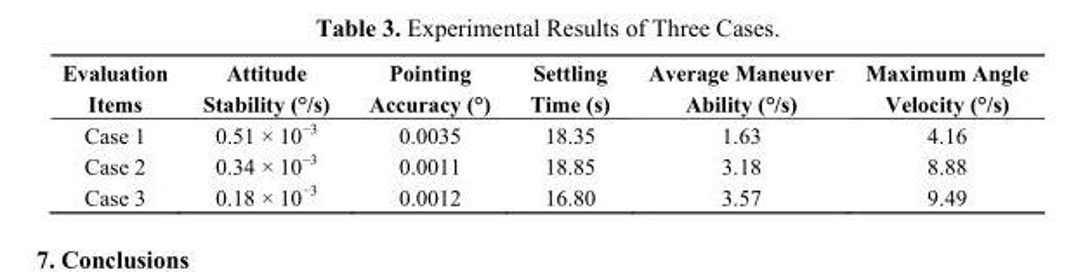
<table><thead><tr><td>Evaluation Items</td><td>Attitude Stability (°/s)</td><td>Pointing Accuracy (°)</td><td>Settling Time (s)</td><td>Average Maneuver Ability (°/s)</td><td>Maximum Angle Velocity (°/s)</td></tr></thead><tbody><tr><td>Case 1</td><td>0.51 × 10<sup>−3</sup></td><td>0.0035</td><td>18.35</td><td>1.63</td><td>4.16</td></tr><tr><td>Case 2</td><td>0.34 × 10<sup>−3</sup></td><td>0.0011</td><td>18.85</td><td>3.18</td><td>8.88</td></tr><tr><td>Case 3</td><td>0.18 × 10<sup>−3</sup></td><td>0.0012</td><td>16.80</td><td>3.57</td><td>9.49</td></tr></tbody></table>